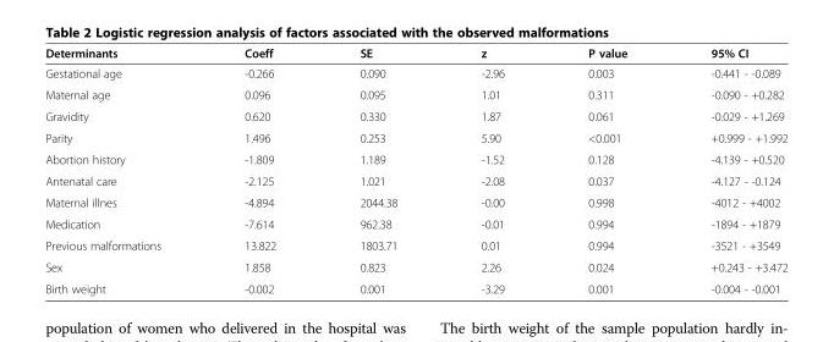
<table><thead><tr><td>Determinants</td><td>Coeff</td><td>SE</td><td>z</td><td>P value</td><td>95% CI</td></tr></thead><tbody><tr><td>Gestational age</td><td>-0.266</td><td>0.090</td><td>-2.96</td><td>0.003</td><td>-0.441 - -0.089</td></tr><tr><td>Maternal age</td><td>0.096</td><td>0.095</td><td>1.01</td><td>0.311</td><td>-0.090 - +0.282</td></tr><tr><td>Gravidity</td><td>0.620</td><td>0.330</td><td>1.87</td><td>0.061</td><td>-0.029 - +1.269</td></tr><tr><td>Parity</td><td>1.496</td><td>0.253</td><td>5.90</td><td>&lt;0.001</td><td>+0.999 - +1.992</td></tr><tr><td>Abortion history</td><td>-1.809</td><td>1.189</td><td>-1.52</td><td>0.128</td><td>-4.139 - +0.520</td></tr><tr><td>Antenatal care</td><td>-2.125</td><td>1.021</td><td>-2.08</td><td>0.037</td><td>-4.127 - -0.124</td></tr><tr><td>Maternal illnes</td><td>-4.894</td><td>2044.38</td><td>-0.00</td><td>0.998</td><td>-4012 - +4002</td></tr><tr><td>Medication</td><td>-7.614</td><td>962.38</td><td>-0.01</td><td>0.994</td><td>-1894 - +1879</td></tr><tr><td>Previous malformations</td><td>13.822</td><td>1803.71</td><td>0.01</td><td>0.994</td><td>-3521 - +3549</td></tr><tr><td>Sex</td><td>1.858</td><td>0.823</td><td>2.26</td><td>0.024</td><td>+0.243 - +3.472</td></tr><tr><td>Birth weight</td><td>-0.002</td><td>0.001</td><td>-3.29</td><td>0.001</td><td>-0.004 - -0.001</td></tr></tbody></table>